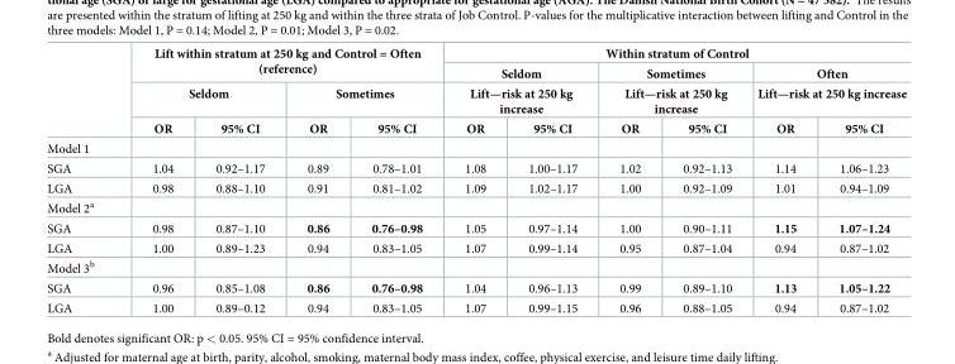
<table><thead><tr><td rowspan="4"></td><td rowspan="2" colspan="4">Lift within stratum at 250 kg and Control = Often (reference)</td><td colspan="6">Within stratum of Control</td></tr><tr><td rowspan="2" colspan="2">Seldom Lift—risk at 250 kg increase</td><td rowspan="2" colspan="2">Sometimes Lift—risk at 250 kg increase</td><td rowspan="2" colspan="2">Often Lift—risk at 250 kg increase</td></tr><tr><td colspan="2">Seldom</td><td colspan="2">Sometimes</td></tr><tr><td>OR</td><td>95% CI</td><td>OR</td><td>95% CI</td><td>OR</td><td>95% CI</td><td>OR</td><td>95% CI</td><td>OR</td><td>95% CI</td></tr></thead><tbody><tr><td colspan="11">Model 1</td></tr><tr><td>SGA</td><td>1.04</td><td>0.92–1.17</td><td>0.89</td><td>0.78–1.01</td><td>1.08</td><td>1.00–1.17</td><td>1.02</td><td>0.92–1.13</td><td>1.14</td><td>1.06–1.23</td></tr><tr><td>LGA</td><td>0.98</td><td>0.88–1.10</td><td>0.91</td><td>0.81–1.02</td><td>1.09</td><td>1.02–1.17</td><td>1.00</td><td>0.92–1.09</td><td>1.01</td><td>0.94–1.09</td></tr><tr><td colspan="11">Model 2<sup>a</sup></td></tr><tr><td>SGA</td><td>0.98</td><td>0.87–1.10</td><td>0.86</td><td>0.76–0.98</td><td>1.05</td><td>0.97–1.14</td><td>1.00</td><td>0.90–1.11</td><td>1.15</td><td>1.07–1.24</td></tr><tr><td>LGA</td><td>1.00</td><td>0.89–1.23</td><td>0.94</td><td>0.83–1.05</td><td>1.07</td><td>0.99–1.14</td><td>0.95</td><td>0.87–1.04</td><td>0.94</td><td>0.87–1.02</td></tr><tr><td colspan="11">Model 3<sup>b</sup></td></tr><tr><td>SGA</td><td>0.96</td><td>0.85–1.08</td><td>0.86</td><td>0.76–0.98</td><td>1.04</td><td>0.96–1.13</td><td>0.99</td><td>0.89–1.10</td><td>1.13</td><td>1.05–1.22</td></tr><tr><td>LGA</td><td>1.00</td><td>0.89–0.12</td><td>0.94</td><td>0.83–1.05</td><td>1.07</td><td>0.99–1.15</td><td>0.96</td><td>0.88–1.05</td><td>0.94</td><td>0.87–1.02</td></tr></tbody></table>